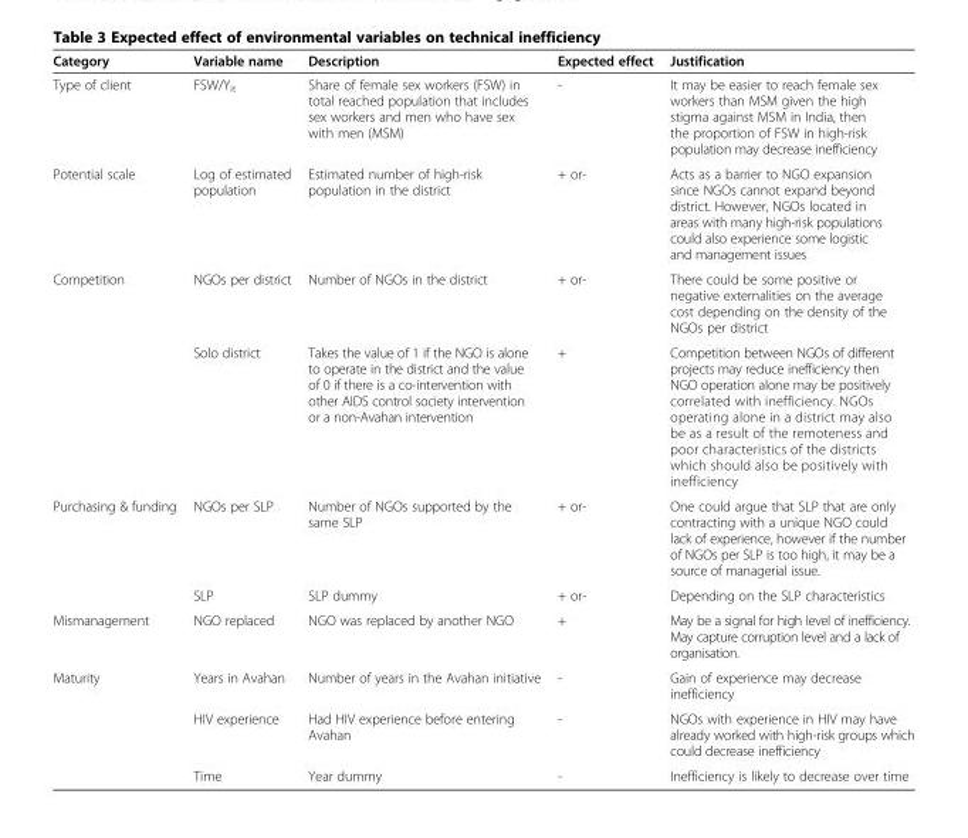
<table><thead><tr><td>Category</td><td>Variable name</td><td>Description</td><td>Expected effect</td><td>Justification</td></tr></thead><tbody><tr><td>Type of client</td><td>FSW/Y<sub>it</sub></td><td>Share of female sex workers (FSW) in total reached population that includes sex workers and men who have sex with men (MSM)</td><td>-</td><td>It may be easier to reach female sex workers than MSM given the high stigma against MSM in India, then the proportion of FSW in high-risk population may decrease inefficiency</td></tr><tr><td>Potential scale</td><td>Log of estimated population</td><td>Estimated number of high-risk population in the district</td><td>+ or-</td><td>Acts as a barrier to NGO expansion since NGOs cannot expand beyond district. However, NGOs located in areas with many high-risk populations could also experience some logistic and management issues</td></tr><tr><td rowspan="2">Competition</td><td>NGOs per district</td><td>Number of NGOs in the district</td><td>+ or-</td><td>There could be some positive or negative externalities on the average cost depending on the density of the NGOs per district</td></tr><tr><td>Solo district</td><td>Takes the value of 1 if the NGO is alone to operate in the district and the value of 0 if there is a co-intervention with other AIDS control society intervention or a non-Avahan intervention</td><td>+</td><td>Competition between NGOs of different projects may reduce inefficiency then NGO operation alone may be positively correlated with inefficiency. NGOs operating alone in a district may also be as a result of the remoteness and poor characteristics of the districts which should also be positively with inefficiency</td></tr><tr><td rowspan="2">Purchasing &amp; funding</td><td>NGOs per SLP</td><td>Number of NGOs supported by the same SLP</td><td>+ or-</td><td>One could argue that SLP that are only contracting with a unique NGO could lack of experience, however if the number of NGOs per SLP is too high, it may be a source of managerial issue.</td></tr><tr><td>SLP</td><td>SLP dummy</td><td>+ or-</td><td>Depending on the SLP characteristics</td></tr><tr><td>Mismanagement</td><td>NGO replaced</td><td>NGO was replaced by another NGO</td><td>+</td><td>May be a signal for high level of inefficiency. May capture corruption level and a lack of organisation.</td></tr><tr><td rowspan="3">Maturity</td><td>Years in Avahan</td><td>Number of years in the Avahan initiative</td><td>-</td><td>Gain of experience may decrease inefficiency</td></tr><tr><td>HIV experience</td><td>Had HIV experience before entering Avahan</td><td>-</td><td>NGOs with experience in HIV may have already worked with high-risk groups which could decrease inefficiency</td></tr><tr><td>Time</td><td>Year dummy</td><td>-</td><td>Inefficiency is likely to decrease over time</td></tr></tbody></table>